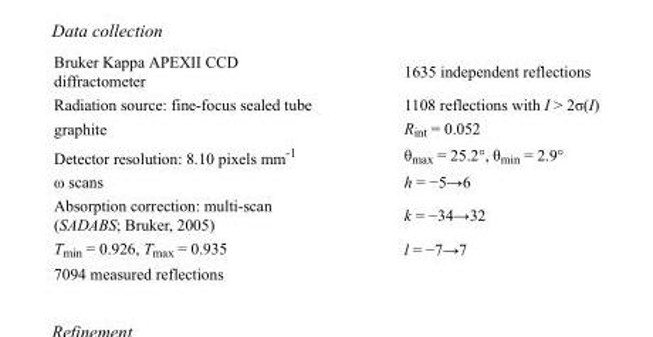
<table><tbody><tr><td>Bruker Kappa APEXII CCD diffractometer</td><td>1635 independent reflections</td></tr><tr><td>Radiation source: fine-focus sealed tube</td><td>1108 reflections with I &gt; 2σ(I)</td></tr><tr><td>graphite</td><td>R<sub>int</sub> = 0.052</td></tr><tr><td>Detector resolution: 8.10 pixels mm<sup>-1</sup></td><td>θ<sub>max</sub> = 25.2°, θ<sub>min</sub> = 2.9°</td></tr><tr><td>ω scans</td><td>h = −5→6</td></tr><tr><td>Absorption correction: multi-scan (SADABS; Bruker, 2005)</td><td>k = −34→32</td></tr><tr><td>T<sub>min</sub> = 0.926, T<sub>max</sub> = 0.935</td><td>l = −7→7</td></tr><tr><td>7094 measured reflections</td><td></td></tr></tbody></table>